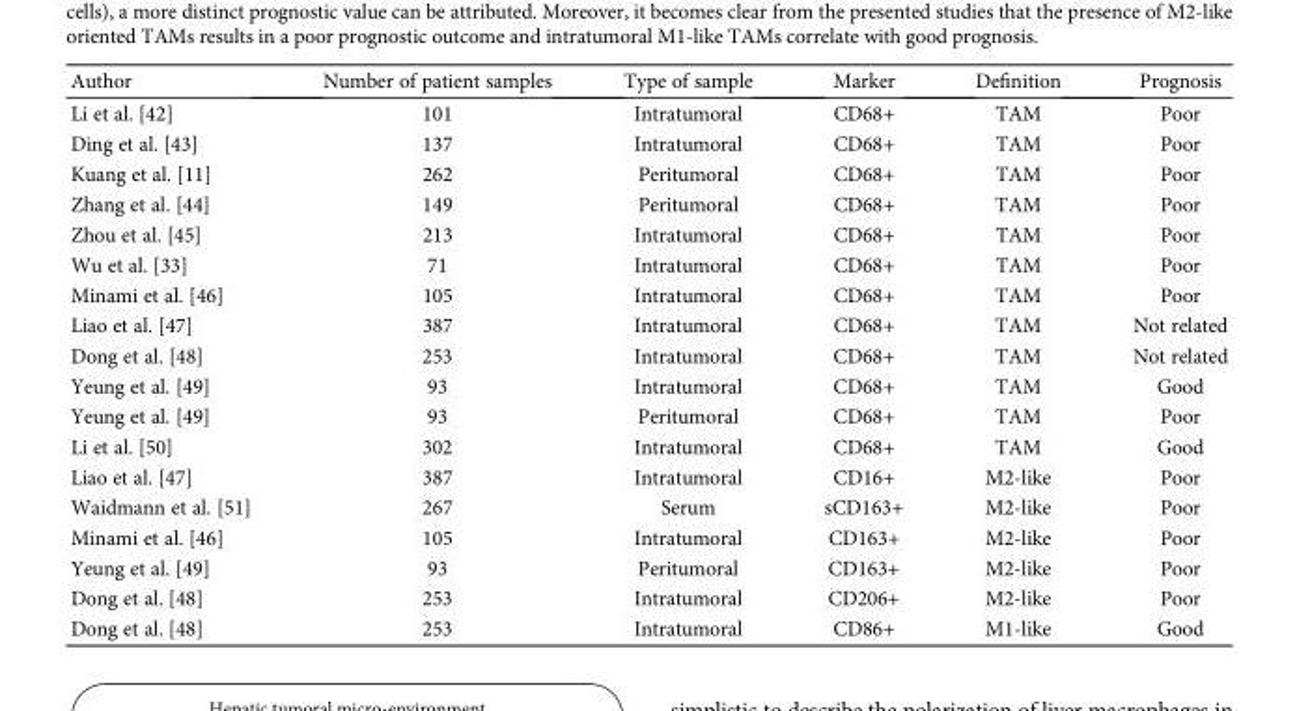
<table><thead><tr><td>Author</td><td>Number of patient samples</td><td>Type of sample</td><td>Marker</td><td>Definition</td><td>Prognosis</td></tr></thead><tbody><tr><td>Li et al. [42]</td><td>101</td><td>Intratumoral</td><td>CD68+</td><td>TAM</td><td>Poor</td></tr><tr><td>Ding et al. [43]</td><td>137</td><td>Intratumoral</td><td>CD68+</td><td>TAM</td><td>Poor</td></tr><tr><td>Kuang et al. [11]</td><td>262</td><td>Peritumoral</td><td>CD68+</td><td>TAM</td><td>Poor</td></tr><tr><td>Zhang et al. [44]</td><td>149</td><td>Peritumoral</td><td>CD68+</td><td>TAM</td><td>Poor</td></tr><tr><td>Zhou et al. [45]</td><td>213</td><td>Intratumoral</td><td>CD68+</td><td>TAM</td><td>Poor</td></tr><tr><td>Wu et al. [33]</td><td>71</td><td>Intratumoral</td><td>CD68+</td><td>TAM</td><td>Poor</td></tr><tr><td>Minami et al. [46]</td><td>105</td><td>Intratumoral</td><td>CD68+</td><td>TAM</td><td>Poor</td></tr><tr><td>Liao et al. [47]</td><td>387</td><td>Intratumoral</td><td>CD68+</td><td>TAM</td><td>Not related</td></tr><tr><td>Dong et al. [48]</td><td>253</td><td>Intratumoral</td><td>CD68+</td><td>TAM</td><td>Not related</td></tr><tr><td>Yeung et al. [49]</td><td>93</td><td>Intratumoral</td><td>CD68+</td><td>TAM</td><td>Good</td></tr><tr><td>Yeung et al. [49]</td><td>93</td><td>Peritumoral</td><td>CD68+</td><td>TAM</td><td>Poor</td></tr><tr><td>Li et al. [50]</td><td>302</td><td>Intratumoral</td><td>CD68+</td><td>TAM</td><td>Good</td></tr><tr><td>Liao et al. [47]</td><td>387</td><td>Intratumoral</td><td>CD16+</td><td>M2-like</td><td>Poor</td></tr><tr><td>Waidmann et al. [51]</td><td>267</td><td>Serum</td><td>sCD163+</td><td>M2-like</td><td>Poor</td></tr><tr><td>Minami et al. [46]</td><td>105</td><td>Intratumoral</td><td>CD163+</td><td>M2-like</td><td>Poor</td></tr><tr><td>Yeung et al. [49]</td><td>93</td><td>Peritumoral</td><td>CD163+</td><td>M2-like</td><td>Poor</td></tr><tr><td>Dong et al. [48]</td><td>253</td><td>Intratumoral</td><td>CD206+</td><td>M2-like</td><td>Poor</td></tr><tr><td>Dong et al. [48]</td><td>253</td><td>Intratumoral</td><td>CD86+</td><td>M1-like</td><td>Good</td></tr></tbody></table>